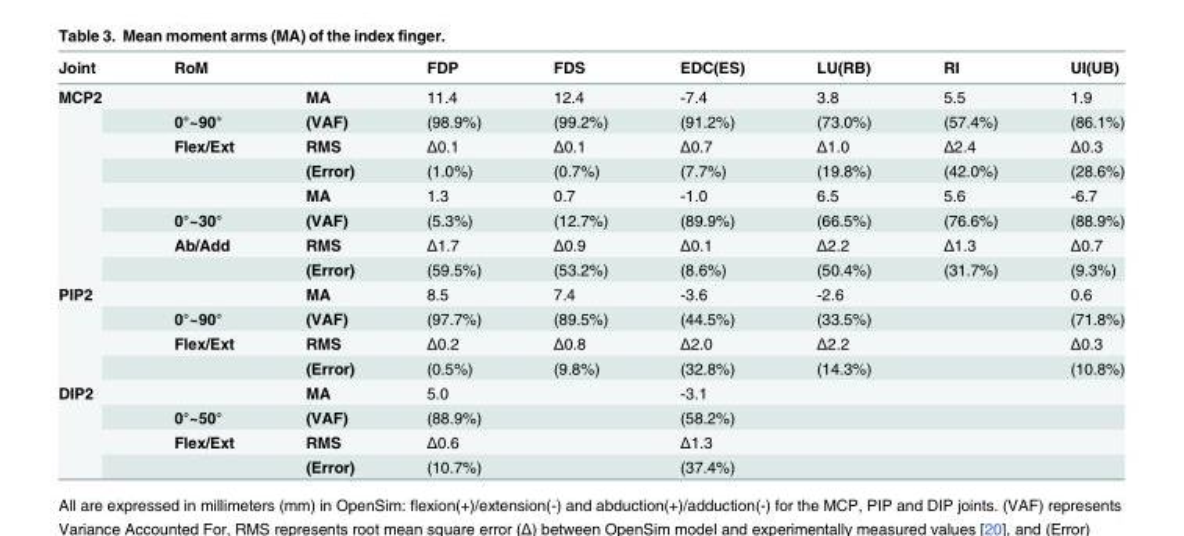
<table><thead><tr><td>Joint</td><td>RoM</td><td></td><td>FDP</td><td>FDS</td><td>EDC(ES)</td><td>LU(RB)</td><td>RI</td><td>UI(UB)</td></tr></thead><tbody><tr><td rowspan="8">MCP2</td><td></td><td>MA</td><td>11.4</td><td>12.4</td><td>-7.4</td><td>3.8</td><td>5.5</td><td>1.9</td></tr><tr><td>0°~90°</td><td>(VAF)</td><td>(98.9%)</td><td>(99.2%)</td><td>(91.2%)</td><td>(73.0%)</td><td>(57.4%)</td><td>(86.1%)</td></tr><tr><td>Flex/Ext</td><td>RMS</td><td>Δ0.1</td><td>Δ0.1</td><td>Δ0.7</td><td>Δ1.0</td><td>Δ2.4</td><td>Δ0.3</td></tr><tr><td></td><td>(Error)</td><td>(1.0%)</td><td>(0.7%)</td><td>(7.7%)</td><td>(19.8%)</td><td>(42.0%)</td><td>(28.6%)</td></tr><tr><td></td><td>MA</td><td>1.3</td><td>0.7</td><td>-1.0</td><td>6.5</td><td>5.6</td><td>-6.7</td></tr><tr><td>0°~30°</td><td>(VAF)</td><td>(5.3%)</td><td>(12.7%)</td><td>(89.9%)</td><td>(66.5%)</td><td>(76.6%)</td><td>(88.9%)</td></tr><tr><td>Ab/Add</td><td>RMS</td><td>Δ1.7</td><td>Δ0.9</td><td>Δ0.1</td><td>Δ2.2</td><td>Δ1.3</td><td>Δ0.7</td></tr><tr><td></td><td>(Error)</td><td>(59.5%)</td><td>(53.2%)</td><td>(8.6%)</td><td>(50.4%)</td><td>(31.7%)</td><td>(9.3%)</td></tr><tr><td rowspan="4">PIP2</td><td></td><td>MA</td><td>8.5</td><td>7.4</td><td>-3.6</td><td>-2.6</td><td></td><td>0.6</td></tr><tr><td>0°~90°</td><td>(VAF)</td><td>(97.7%)</td><td>(89.5%)</td><td>(44.5%)</td><td>(33.5%)</td><td></td><td>(71.8%)</td></tr><tr><td>Flex/Ext</td><td>RMS</td><td>Δ0.2</td><td>Δ0.8</td><td>Δ2.0</td><td>Δ2.2</td><td></td><td>Δ0.3</td></tr><tr><td></td><td>(Error)</td><td>(0.5%)</td><td>(9.8%)</td><td>(32.8%)</td><td>(14.3%)</td><td></td><td>(10.8%)</td></tr><tr><td rowspan="4">DIP2</td><td></td><td>MA</td><td>5.0</td><td></td><td>-3.1</td><td></td><td></td><td></td></tr><tr><td>0°~50°</td><td>(VAF)</td><td>(88.9%)</td><td></td><td>(58.2%)</td><td></td><td></td><td></td></tr><tr><td>Flex/Ext</td><td>RMS</td><td>Δ0.6</td><td></td><td>Δ1.3</td><td></td><td></td><td></td></tr><tr><td></td><td>(Error)</td><td>(10.7%)</td><td></td><td>(37.4%)</td><td></td><td></td><td></td></tr></tbody></table>